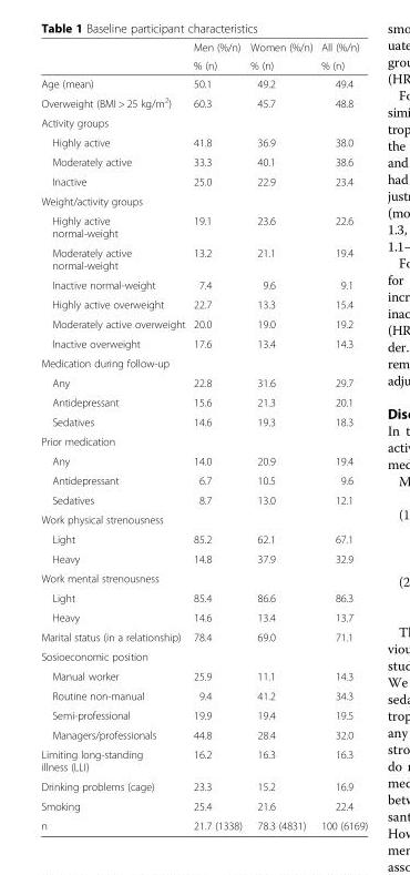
<table><thead><tr><td rowspan="2"></td><td rowspan="2">Men (%/n) % (n)</td><td rowspan="2">Women (%/n) % (n)</td><td rowspan="2">All (%/n) % (n)</td></tr><tr></tr></thead><tbody><tr><td>Age (mean)</td><td>50.1</td><td>49.2</td><td>49.4</td></tr><tr><td>Overweight (BMI &gt; 25 kg/m<sup>2</sup>)</td><td>60.3</td><td>45.7</td><td>48.8</td></tr><tr><td colspan="4">Activity groups</td></tr><tr><td>Highly active</td><td>41.8</td><td>36.9</td><td>38.0</td></tr><tr><td>Moderately active</td><td>33.3</td><td>40.1</td><td>38.6</td></tr><tr><td>Inactive</td><td>25.0</td><td>22.9</td><td>23.4</td></tr><tr><td colspan="4">Weight/activity groups</td></tr><tr><td>Highly active normal-weight</td><td>19.1</td><td>23.6</td><td>22.6</td></tr><tr><td>Moderately active normal-weight</td><td>13.2</td><td>21.1</td><td>19.4</td></tr><tr><td>Inactive normal-weight</td><td>7.4</td><td>9.6</td><td>9.1</td></tr><tr><td>Highly active overweight</td><td>22.7</td><td>13.3</td><td>15.4</td></tr><tr><td>Moderately active overweight</td><td>20.0</td><td>19.0</td><td>19.2</td></tr><tr><td>Inactive overweight</td><td>17.6</td><td>13.4</td><td>14.3</td></tr><tr><td colspan="4">Medication during follow-up</td></tr><tr><td>Any</td><td>22.8</td><td>31.6</td><td>29.7</td></tr><tr><td>Antidepressant</td><td>15.6</td><td>21.3</td><td>20.1</td></tr><tr><td>Sedatives</td><td>14.6</td><td>19.3</td><td>18.3</td></tr><tr><td colspan="4">Prior medication</td></tr><tr><td>Any</td><td>14.0</td><td>20.9</td><td>19.4</td></tr><tr><td>Antidepressant</td><td>6.7</td><td>10.5</td><td>9.6</td></tr><tr><td>Sedatives</td><td>8.7</td><td>13.0</td><td>12.1</td></tr><tr><td colspan="4">Work physical strenousness</td></tr><tr><td>Light</td><td>85.2</td><td>62.1</td><td>67.1</td></tr><tr><td>Heavy</td><td>14.8</td><td>37.9</td><td>32.9</td></tr><tr><td colspan="4">Work mental strenousness</td></tr><tr><td>Light</td><td>85.4</td><td>86.6</td><td>86.3</td></tr><tr><td>Heavy</td><td>14.6</td><td>13.4</td><td>13.7</td></tr><tr><td>Marital status (in a relationship)</td><td>78.4</td><td>69.0</td><td>71.1</td></tr><tr><td colspan="4">Sosioeconomic position</td></tr><tr><td>Manual worker</td><td>25.9</td><td>11.1</td><td>14.3</td></tr><tr><td>Routine non-manual</td><td>9.4</td><td>41.2</td><td>34.3</td></tr><tr><td>Semi-professional</td><td>19.9</td><td>19.4</td><td>19.5</td></tr><tr><td>Managers/professionals</td><td>44.8</td><td>28.4</td><td>32.0</td></tr><tr><td>Limiting long-standing illness (LLI)</td><td>16.2</td><td>16.3</td><td>16.3</td></tr><tr><td>Drinking problems (cage)</td><td>23.3</td><td>15.2</td><td>16.9</td></tr><tr><td>Smoking</td><td>25.4</td><td>21.6</td><td>22.4</td></tr><tr><td>n</td><td>21.7 (1338)</td><td>78.3 (4831)</td><td>100 (6169)</td></tr></tbody></table>